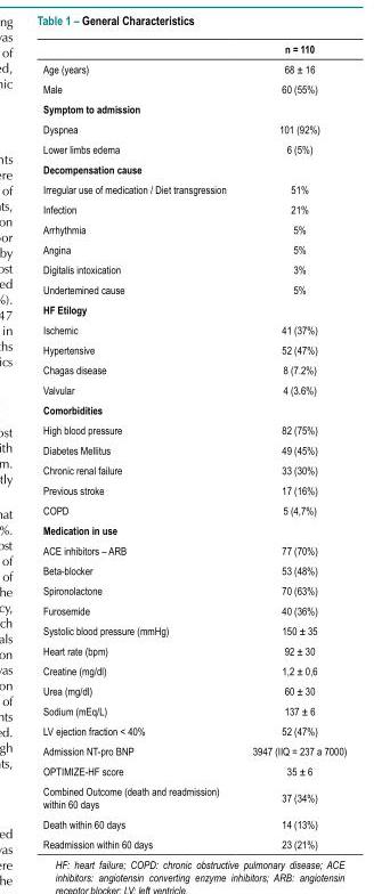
<table><thead><tr><td></td><td>n = 110</td></tr></thead><tbody><tr><td>Age (years)</td><td>68 ± 16</td></tr><tr><td>Male</td><td>60 (55%)</td></tr><tr><td colspan="2">Symptom to admission</td></tr><tr><td>Dyspnea</td><td>101 (92%)</td></tr><tr><td>Lower limbs edema</td><td>6 (5%)</td></tr><tr><td colspan="2">Decompensation cause</td></tr><tr><td>Irregular use of medication / Diet transgression</td><td>51%</td></tr><tr><td>Infection</td><td>21%</td></tr><tr><td>Arrhythmia</td><td>5%</td></tr><tr><td>Angina</td><td>5%</td></tr><tr><td>Digitalis intoxication</td><td>3%</td></tr><tr><td>Undertemined cause</td><td>5%</td></tr><tr><td colspan="2">HF Etilogy</td></tr><tr><td>Ischemic</td><td>41 (37%)</td></tr><tr><td>Hypertensive</td><td>52 (47%)</td></tr><tr><td>Chagas disease</td><td>8 (7.2%)</td></tr><tr><td>Valvular</td><td>4 (3.6%)</td></tr><tr><td colspan="2">Comorbidities</td></tr><tr><td>High blood pressure</td><td>82 (75%)</td></tr><tr><td>Diabetes Mellitus</td><td>49 (45%)</td></tr><tr><td>Chronic renal failure</td><td>33 (30%)</td></tr><tr><td>Previous stroke</td><td>17 (16%)</td></tr><tr><td>COPD</td><td>5 (4,7%)</td></tr><tr><td colspan="2">Medication in use</td></tr><tr><td>ACE inhibitors – ARB</td><td>77 (70%)</td></tr><tr><td>Beta-blocker</td><td>53 (48%)</td></tr><tr><td>Spironolactone</td><td>70 (63%)</td></tr><tr><td>Furosemide</td><td>40 (36%)</td></tr><tr><td>Systolic blood pressure (mmHg)</td><td>150 ± 35</td></tr><tr><td>Heart rate (bpm)</td><td>92 ± 30</td></tr><tr><td>Creatine (mg/dl)</td><td>1,2 ± 0,6</td></tr><tr><td>Urea (mg/dl)</td><td>60 ± 30</td></tr><tr><td>Sodium (mEq/L)</td><td>137 ± 6</td></tr><tr><td>LV ejection fraction &lt; 40%</td><td>52 (47%)</td></tr><tr><td>Admission NT-pro BNP</td><td>3947 (IIQ = 237 a 7000)</td></tr><tr><td>OPTIMIZE-HF score</td><td>35 ± 6</td></tr><tr><td>Combined Outcome (death and readmission) within 60 days</td><td>37 (34%)</td></tr><tr><td>Death within 60 days</td><td>14 (13%)</td></tr><tr><td>Readmission within 60 days</td><td>23 (21%)</td></tr></tbody></table>